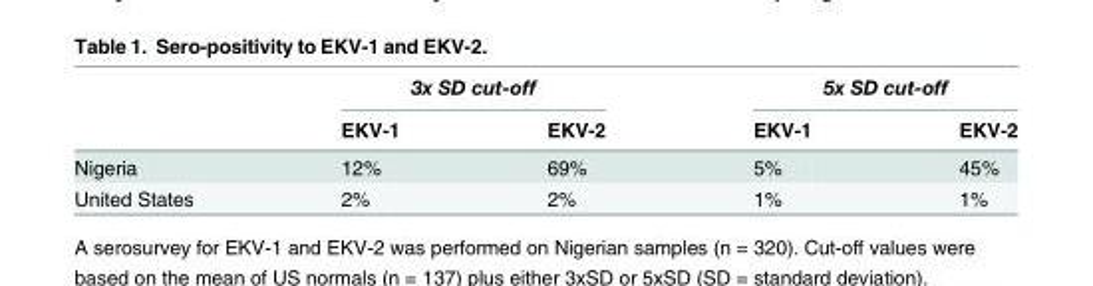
<table><thead><tr><td rowspan="2"></td><td colspan="2">3x SD cut-off</td><td colspan="2">5x SD cut-off</td></tr><tr><td>EKV-1</td><td>EKV-2</td><td>EKV-1</td><td>EKV-2</td></tr></thead><tbody><tr><td>Nigeria</td><td>12%</td><td>69%</td><td>5%</td><td>45%</td></tr><tr><td>United States</td><td>2%</td><td>2%</td><td>1%</td><td>1%</td></tr></tbody></table>